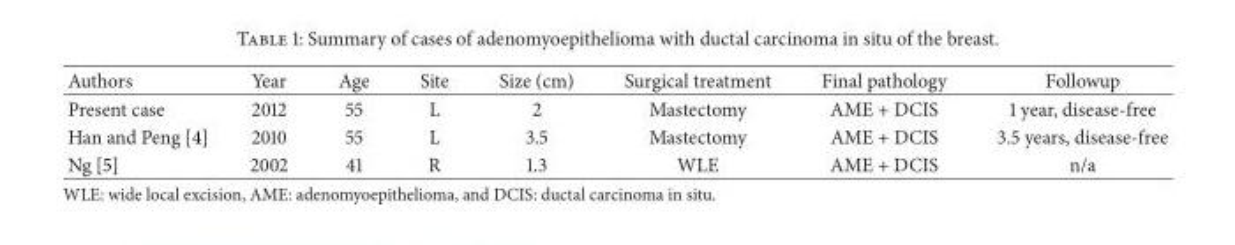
<table><thead><tr><td>Authors</td><td>Year</td><td>Age</td><td>Site</td><td>Size (cm)</td><td>Surgical treatment</td><td>Final pathology</td><td>Followup</td></tr></thead><tbody><tr><td>Present case</td><td>2012</td><td>55</td><td>L</td><td>2</td><td>Mastectomy</td><td>AME + DCIS</td><td>1 year, disease-free</td></tr><tr><td>Han and Peng [4]</td><td>2010</td><td>55</td><td>L</td><td>3.5</td><td>Mastectomy</td><td>AME + DCIS</td><td>3.5 years, disease-free</td></tr><tr><td>Ng [5]</td><td>2002</td><td>41</td><td>R</td><td>1.3</td><td>WLE</td><td>AME + DCIS</td><td>n/a</td></tr></tbody></table>